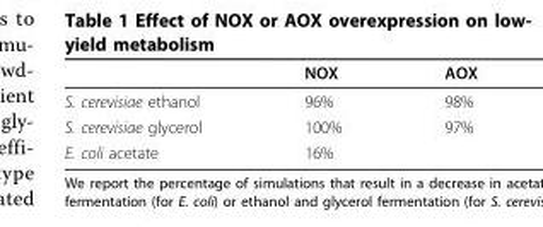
<table><thead><tr><td></td><td>NOX</td><td>AOX</td></tr></thead><tbody><tr><td>S. cerevisiae ethanol</td><td>96%</td><td>98%</td></tr><tr><td>S. cerevisiae glycerol</td><td>100%</td><td>97%</td></tr><tr><td>E. coli acetate</td><td>16%</td><td></td></tr></tbody></table>